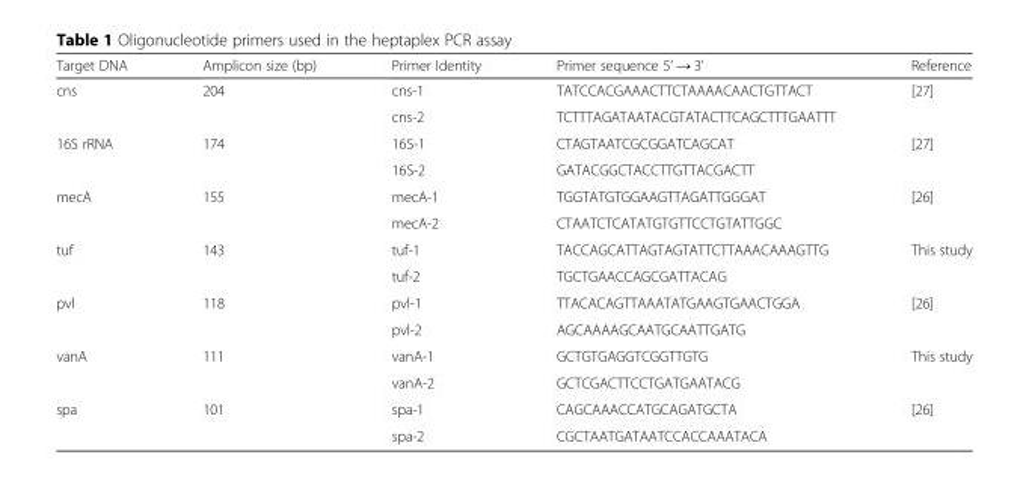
<table><thead><tr><td>Target DNA</td><td>Amplicon size (bp)</td><td>Primer Identity</td><td>Primer sequence 5’ → 3’</td><td>Reference</td></tr></thead><tbody><tr><td rowspan="2">cns</td><td rowspan="2">204</td><td>cns-1</td><td>TATCCACGAAACTTCTAAAACAACTGTTACT</td><td rowspan="2">[27]</td></tr><tr><td>cns-2</td><td>TCTTTAGATAATACGTATACTTCAGCTTTGAATTT</td></tr><tr><td rowspan="2">16S rRNA</td><td rowspan="2">174</td><td>16S-1</td><td>CTAGTAATCGCGGATCAGCAT</td><td rowspan="2">[27]</td></tr><tr><td>16S-2</td><td>GATACGGCTACCTTGTTACGACTT</td></tr><tr><td rowspan="2">mecA</td><td rowspan="2">155</td><td>mecA-1</td><td>TGGTATGTGGAAGTTAGATTGGGAT</td><td rowspan="2">[26]</td></tr><tr><td>mecA-2</td><td>CTAATCTCATATGTGTTCCTGTATTGGC</td></tr><tr><td rowspan="2">tuf</td><td rowspan="2">143</td><td>tuf-1</td><td>TACCAGCATTAGTAGTATTCTTAAACAAAGTTG</td><td rowspan="2">This study</td></tr><tr><td>tuf-2</td><td>TGCTGAACCAGCGATTACAG</td></tr><tr><td rowspan="2">pvl</td><td rowspan="2">118</td><td>pvl-1</td><td>TTACACAGTTAAATATGAAGTGAACTGGA</td><td rowspan="2">[26]</td></tr><tr><td>pvl-2</td><td>AGCAAAAGCAATGCAATTGATG</td></tr><tr><td rowspan="2">vanA</td><td rowspan="2">111</td><td>vanA-1</td><td>GCTGTGAGGTCGGTTGTG</td><td rowspan="2">This study</td></tr><tr><td>vanA-2</td><td>GCTCGACTTCCTGATGAATACG</td></tr><tr><td rowspan="2">spa</td><td rowspan="2">101</td><td>spa-1</td><td>CAGCAAACCATGCAGATGCTA</td><td rowspan="2">[26]</td></tr><tr><td>spa-2</td><td>CGCTAATGATAATCCACCAAATACA</td></tr></tbody></table>